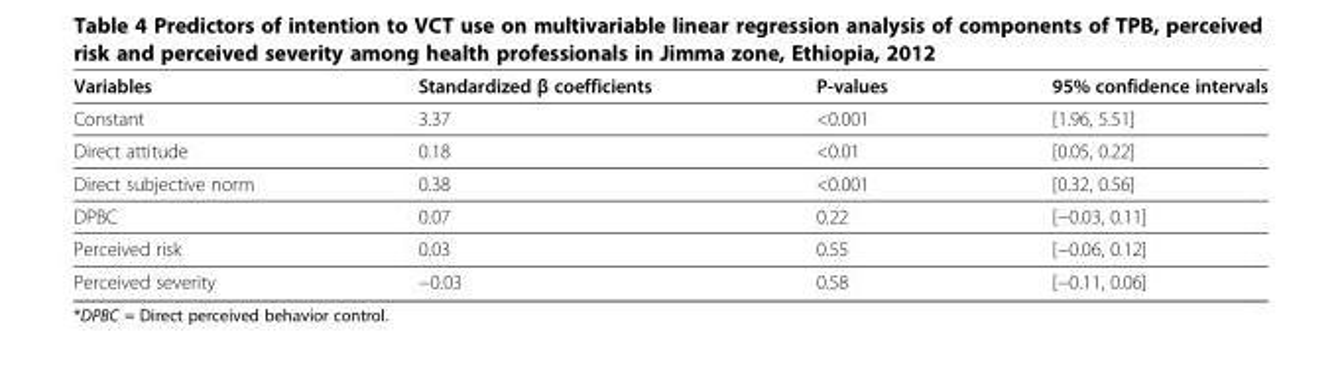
<table><thead><tr><td>Variables</td><td>Standardized β coefficients</td><td>P-values</td><td>95% confidence intervals</td></tr></thead><tbody><tr><td>Constant</td><td>3.37</td><td>&lt;0.001</td><td>[1.96, 5.51]</td></tr><tr><td>Direct attitude</td><td>0.18</td><td>&lt;0.01</td><td>[0.05, 0.22]</td></tr><tr><td>Direct subjective norm</td><td>0.38</td><td>&lt;0.001</td><td>[0.32, 0.56]</td></tr><tr><td>DPBC</td><td>0.07</td><td>0.22</td><td>[−0.03, 0.11]</td></tr><tr><td>Perceived risk</td><td>0.03</td><td>0.55</td><td>[−0.06, 0.12]</td></tr><tr><td>Perceived severity</td><td>−0.03</td><td>0.58</td><td>[−0.11, 0.06]</td></tr></tbody></table>